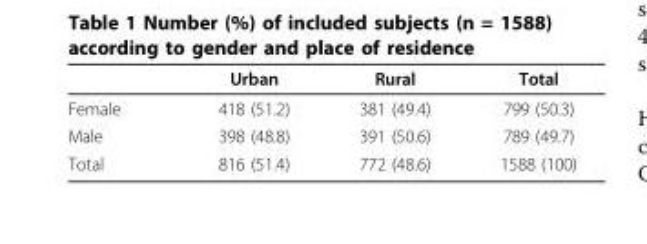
<table><thead><tr><td></td><td>Urban</td><td>Rural</td><td>Total</td></tr></thead><tbody><tr><td>Female</td><td>418 (51.2)</td><td>381 (49.4)</td><td>799 (50.3)</td></tr><tr><td>Male</td><td>398 (48.8)</td><td>391 (50.6)</td><td>789 (49.7)</td></tr><tr><td>Total</td><td>816 (51.4)</td><td>772 (48.6)</td><td>1588 (100)</td></tr></tbody></table>